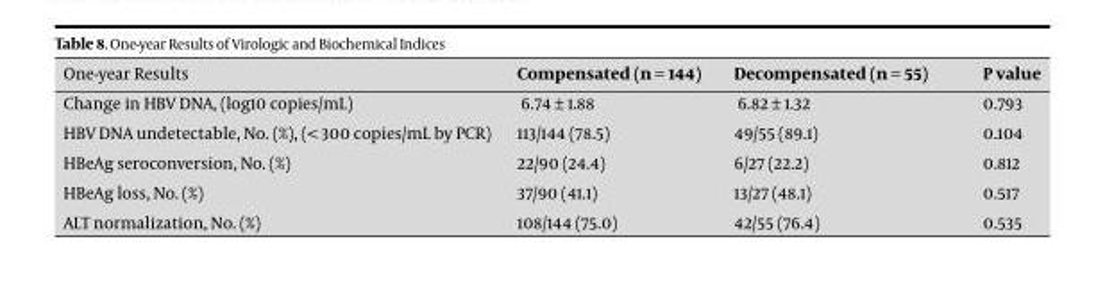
<table><thead><tr><td>One-year Results</td><td>Compensated (n = 144)</td><td>Decompensated (n = 55)</td><td>P value</td></tr></thead><tbody><tr><td>Change in HBV DNA, (log10 copies/mL)</td><td>6.74 ± 1.88</td><td>6.82 ± 1.32</td><td>0.793</td></tr><tr><td>HBV DNA undetectable, No. (%), (&lt; 300 copies/mL by PCR)</td><td>113/144 (78.5)</td><td>49/55 (89.1)</td><td>0.104</td></tr><tr><td>HBeAg seroconversion, No. (%)</td><td>22/90 (24.4)</td><td>6/27 (22.2)</td><td>0.812</td></tr><tr><td>HBeAg loss, No. (%)</td><td>37/90 (41.1)</td><td>13/27 (48.1)</td><td>0.517</td></tr><tr><td>ALT normalization, No. (%)</td><td>108/144 (75.0)</td><td>42/55 (76.4)</td><td>0.535</td></tr></tbody></table>